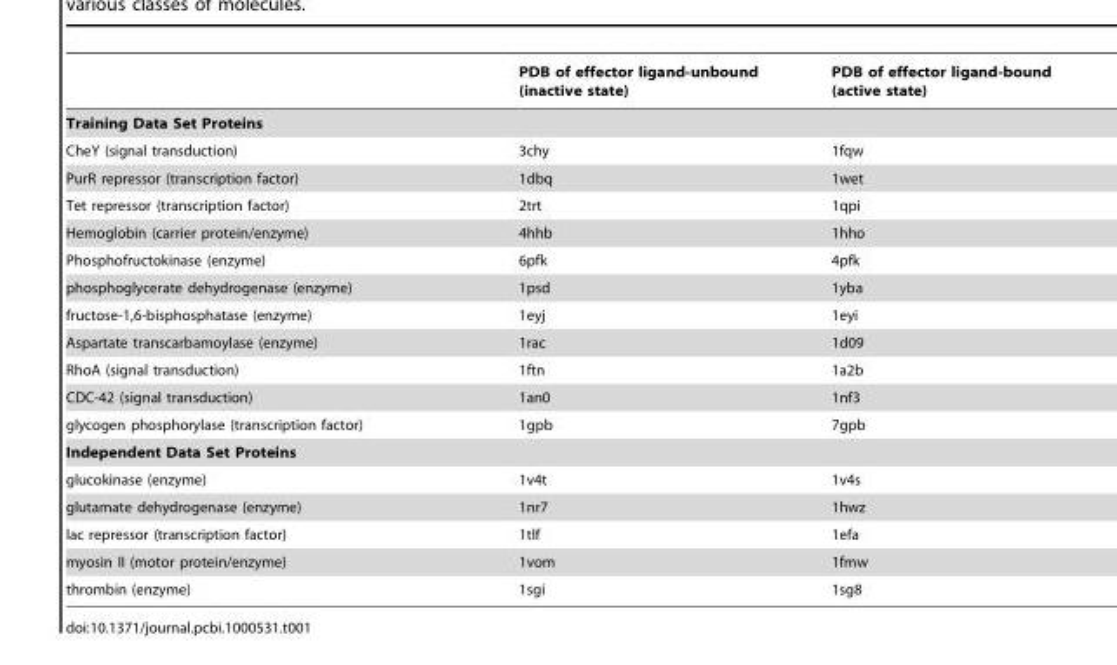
<table><thead><tr><td></td><td>PDB of effector ligand-unbound (inactive state)</td><td>PDB of effector ligand-bound (active state)</td></tr></thead><tbody><tr><td colspan="3">Training Data Set Proteins</td></tr><tr><td>CheY (signal transduction)</td><td>3chy</td><td>1fqw</td></tr><tr><td>PurR repressor (transcription factor)</td><td>1dbq</td><td>1wet</td></tr><tr><td>Tet repressor (transcription factor)</td><td>2trt</td><td>1qpi</td></tr><tr><td>Hemoglobin (carrier protein/enzyme)</td><td>4hhb</td><td>1hho</td></tr><tr><td>Phosphofructokinase (enzyme)</td><td>6pfk</td><td>4pfk</td></tr><tr><td>phosphoglycerate dehydrogenase (enzyme)</td><td>1psd</td><td>1yba</td></tr><tr><td>fructose-1,6-bisphosphatase (enzyme)</td><td>1eyj</td><td>1eyi</td></tr><tr><td>Aspartate transcarbamoylase (enzyme)</td><td>1rac</td><td>1d09</td></tr><tr><td>RhoA (signal transduction)</td><td>1ftn</td><td>1a2b</td></tr><tr><td>CDC-42 (signal transduction)</td><td>1an0</td><td>1nf3</td></tr><tr><td>glycogen phosphorylase (transcription factor)</td><td>1gpb</td><td>7gpb</td></tr><tr><td colspan="3">Independent Data Set Proteins</td></tr><tr><td>glucokinase (enzyme)</td><td>1v4t</td><td>1v4s</td></tr><tr><td>glutamate dehydrogenase (enzyme)</td><td>1nr7</td><td>1hwz</td></tr><tr><td>lac repressor (transcription factor)</td><td>1tlf</td><td>1efa</td></tr><tr><td>myosin II (motor protein/enzyme)</td><td>1vom</td><td>1fmw</td></tr><tr><td>thrombin (enzyme)</td><td>1sgi</td><td>1sg8</td></tr></tbody></table>